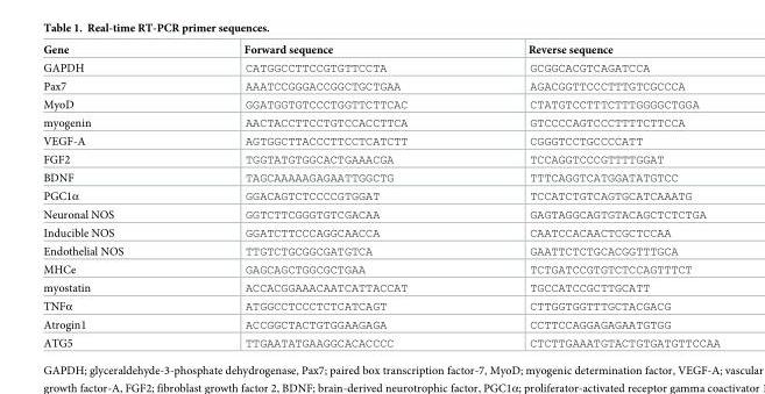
<table><thead><tr><td>Gene</td><td>Forward sequence</td><td>Reverse sequence</td></tr></thead><tbody><tr><td>GAPDH</td><td>CATGGCCTTCCGTGTTCCTA</td><td>GCGGCACGTCAGATCCA</td></tr><tr><td>Pax7</td><td>AAATCCGGGACCGGCTGCTGAA</td><td>AGACGGTTCCCTTTGTCGCCCA</td></tr><tr><td>MyoD</td><td>GGATGGTGTCCCTGGTTCTTCAC</td><td>CTATGTCCTTTCTTTGGGGCTGGA</td></tr><tr><td>myogenin</td><td>AACTACCTTCCTGTCCACCTTCA</td><td>GTCCCCAGTCCCTTTTCTTCCA</td></tr><tr><td>VEGF-A</td><td>AGTGGCTTACCCTTCCTCATCTT</td><td>CGGGTCCTGCCCCATT</td></tr><tr><td>FGF2</td><td>TGGTATGTGGCACTGAAACGA</td><td>TCCAGGTCCCGTTTTGGAT</td></tr><tr><td>BDNF</td><td>TAGCAAAAAGAGAATTGGCTG</td><td>TTTCAGGTCATGGATATGTCC</td></tr><tr><td>PGC1α</td><td>GGACAGTCTCCCCGTGGAT</td><td>TCCATCTGTCAGTGCATCAAATG</td></tr><tr><td>Neuronal NOS</td><td>GGTCTTCGGGTGTCGACAA</td><td>GAGTAGGCAGTGTACAGCTCTCTGA</td></tr><tr><td>Inducible NOS</td><td>GGATCTTCCCAGGCAACCA</td><td>CAATCCACAACTCGCTCCAA</td></tr><tr><td>Endothelial NOS</td><td>TTGTCTGCGGCGATGTCA</td><td>GAATTCTCTGCACGGTTTGCA</td></tr><tr><td>MHCe</td><td>GAGCAGCTGGCGCTGAA</td><td>TCTGATCCGTGTCTCCAGTTTCT</td></tr><tr><td>myostatin</td><td>ACCACGGAAACAATCATTACCAT</td><td>TGCCATCCGCTTGCATT</td></tr><tr><td>TNFα</td><td>ATGGCCTCCCTCTCATCAGT</td><td>CTTGGTGGTTTGCTACGACG</td></tr><tr><td>Atrogin1</td><td>ACCGGCTACTGTGGAAGAGA</td><td>CCTTCCAGGAGAGAATGTGG</td></tr><tr><td>ATG5</td><td>TTGAATATGAAGGCACACCCC</td><td>CTCTTGAAATGTACTGTGATGTTCCAA</td></tr></tbody></table>